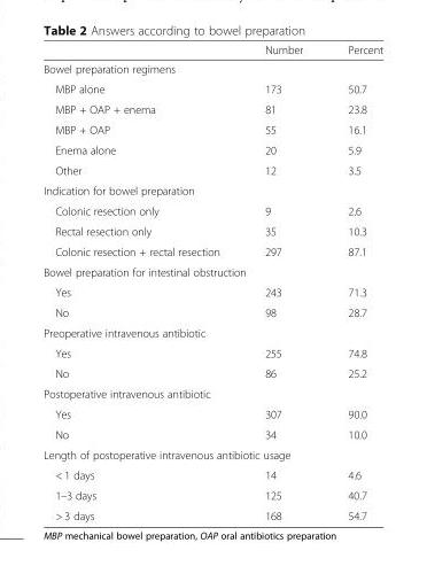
<table><thead><tr><td></td><td>Number</td><td>Percent</td></tr></thead><tbody><tr><td colspan="3">Bowel preparation regimens</td></tr><tr><td>MBP alone</td><td>173</td><td>50.7</td></tr><tr><td>MBP + OAP + enema</td><td>81</td><td>23.8</td></tr><tr><td>MBP + OAP</td><td>55</td><td>16.1</td></tr><tr><td>Enema alone</td><td>20</td><td>5.9</td></tr><tr><td>Other</td><td>12</td><td>3.5</td></tr><tr><td colspan="3">Indication for bowel preparation</td></tr><tr><td>Colonic resection only</td><td>9</td><td>2.6</td></tr><tr><td>Rectal resection only</td><td>35</td><td>10.3</td></tr><tr><td>Colonic resection + rectal resection</td><td>297</td><td>87.1</td></tr><tr><td colspan="3">Bowel preparation for intestinal obstruction</td></tr><tr><td>Yes</td><td>243</td><td>71.3</td></tr><tr><td>No</td><td>98</td><td>28.7</td></tr><tr><td colspan="3">Preoperative intravenous antibiotic</td></tr><tr><td>Yes</td><td>255</td><td>74.8</td></tr><tr><td>No</td><td>86</td><td>25.2</td></tr><tr><td colspan="3">Postoperative intravenous antibiotic</td></tr><tr><td>Yes</td><td>307</td><td>90.0</td></tr><tr><td>No</td><td>34</td><td>10.0</td></tr><tr><td colspan="3">Length of postoperative intravenous antibiotic usage</td></tr><tr><td>&lt; 1 days</td><td>14</td><td>4.6</td></tr><tr><td>1–3 days</td><td>125</td><td>40.7</td></tr><tr><td>&gt; 3 days</td><td>168</td><td>54.7</td></tr></tbody></table>